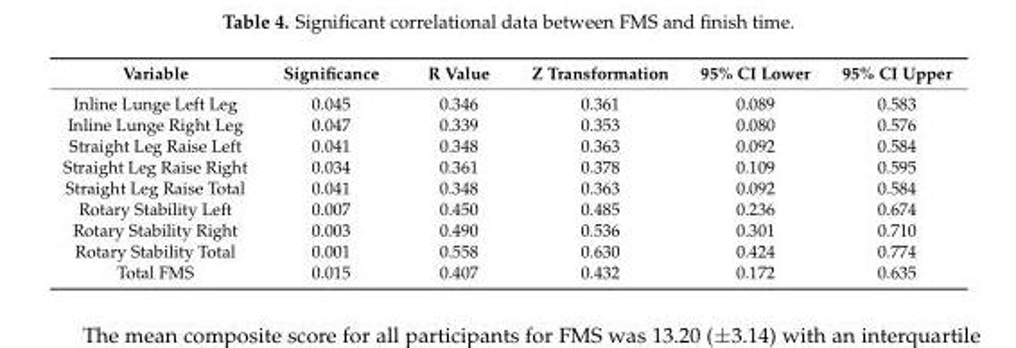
<table><thead><tr><td>Variable</td><td>Significance</td><td>R Value</td><td>Z Transformation</td><td>95% CI Lower</td><td>95% CI Upper</td></tr></thead><tbody><tr><td>Inline Lunge Left Leg</td><td>0.045</td><td>0.346</td><td>0.361</td><td>0.089</td><td>0.583</td></tr><tr><td>Inline Lunge Right Leg</td><td>0.047</td><td>0.339</td><td>0.353</td><td>0.080</td><td>0.576</td></tr><tr><td>Straight Leg Raise Left</td><td>0.041</td><td>0.348</td><td>0.363</td><td>0.092</td><td>0.584</td></tr><tr><td>Straight Leg Raise Right</td><td>0.034</td><td>0.361</td><td>0.378</td><td>0.109</td><td>0.595</td></tr><tr><td>Straight Leg Raise Total</td><td>0.041</td><td>0.348</td><td>0.363</td><td>0.092</td><td>0.584</td></tr><tr><td>Rotary Stability Left</td><td>0.007</td><td>0.450</td><td>0.485</td><td>0.236</td><td>0.674</td></tr><tr><td>Rotary Stability Right</td><td>0.003</td><td>0.490</td><td>0.536</td><td>0.301</td><td>0.710</td></tr><tr><td>Rotary Stability Total</td><td>0.001</td><td>0.558</td><td>0.630</td><td>0.424</td><td>0.774</td></tr><tr><td>Total FMS</td><td>0.015</td><td>0.407</td><td>0.432</td><td>0.172</td><td>0.635</td></tr></tbody></table>